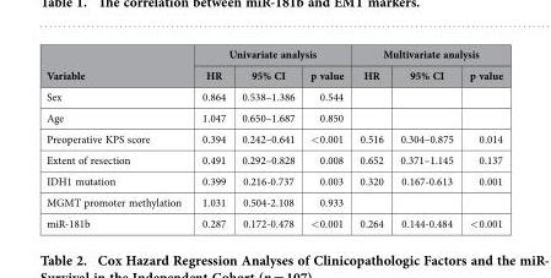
<table><thead><tr><td rowspan="2">Variable</td><td colspan="3">Univariate analysis</td><td colspan="3">Multivariate analysis</td></tr><tr><td>HR</td><td>95% CI</td><td>p value</td><td>HR</td><td>95% CI</td><td>p value</td></tr></thead><tbody><tr><td>Sex</td><td>0.864</td><td>0.538–1.386</td><td>0.544</td><td></td><td></td><td></td></tr><tr><td>Age</td><td>1.047</td><td>0.650–1.687</td><td>0.850</td><td></td><td></td><td></td></tr><tr><td>Preoperative KPS score</td><td>0.394</td><td>0.242–0.641</td><td>&lt; 0.001</td><td>0.516</td><td>0.304–0.875</td><td>0.014</td></tr><tr><td>Extent of resection</td><td>0.491</td><td>0.292–0.828</td><td>0.008</td><td>0.652</td><td>0.371–1.145</td><td>0.137</td></tr><tr><td>IDH1 mutation</td><td>0.399</td><td>0.216-0.737</td><td>0.003</td><td>0.320</td><td>0.167-0.613</td><td>0.001</td></tr><tr><td>MGMT promoter methylation</td><td>1.031</td><td>0.504-2.108</td><td>0.933</td><td></td><td></td><td></td></tr><tr><td>miR-181b</td><td>0.287</td><td>0.172-0.478</td><td>&lt; 0.001</td><td>0.264</td><td>0.144-0.484</td><td>&lt; 0.001</td></tr></tbody></table>